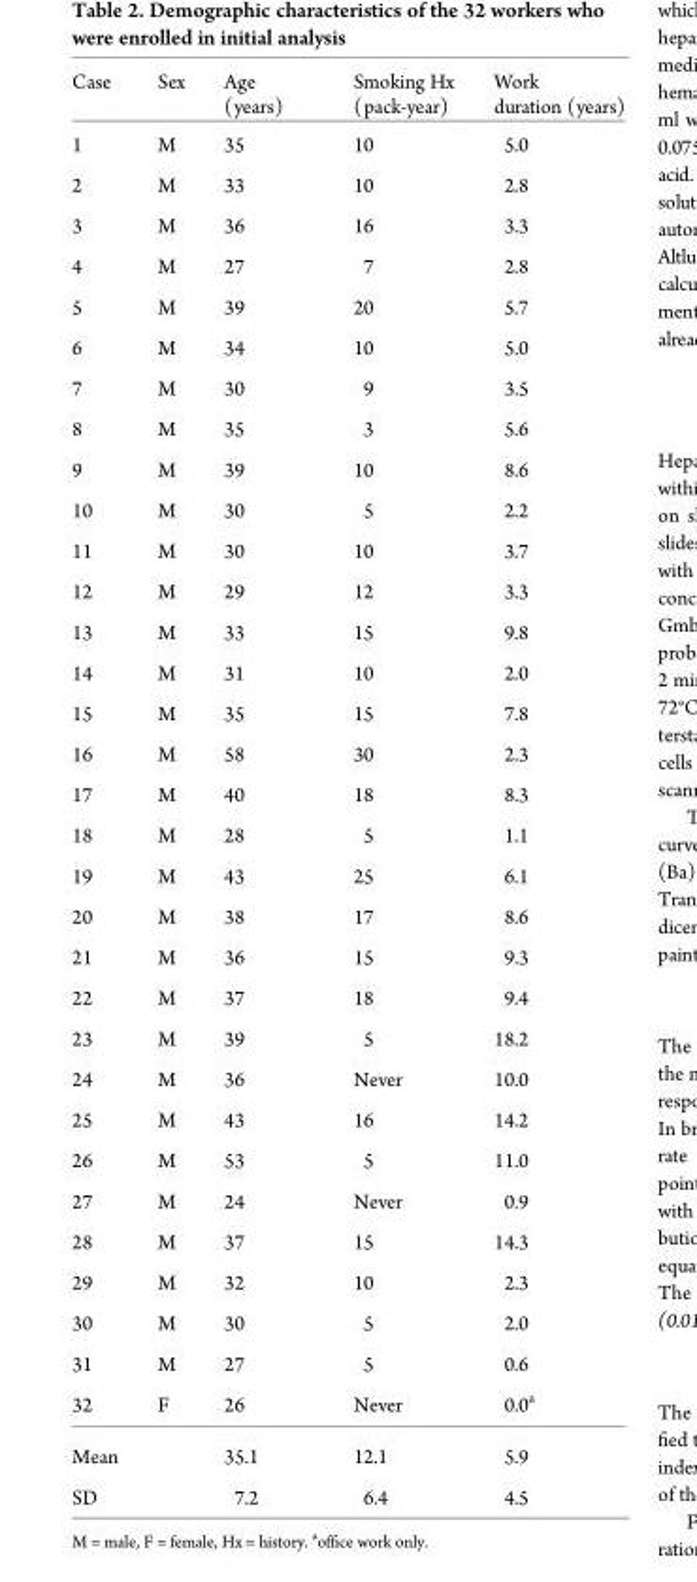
<table><thead><tr><td>Case</td><td>Sex</td><td>Age (years)</td><td>Smoking Hx (pack-year)</td><td>Work duration (years)</td></tr></thead><tbody><tr><td>1</td><td>M</td><td>35</td><td>10</td><td>5.0</td></tr><tr><td>2</td><td>M</td><td>33</td><td>10</td><td>2.8</td></tr><tr><td>3</td><td>M</td><td>36</td><td>16</td><td>3.3</td></tr><tr><td>4</td><td>M</td><td>27</td><td>7</td><td>2.8</td></tr><tr><td>5</td><td>M</td><td>39</td><td>20</td><td>5.7</td></tr><tr><td>6</td><td>M</td><td>34</td><td>10</td><td>5.0</td></tr><tr><td>7</td><td>M</td><td>30</td><td>9</td><td>3.5</td></tr><tr><td>8</td><td>M</td><td>35</td><td>3</td><td>5.6</td></tr><tr><td>9</td><td>M</td><td>39</td><td>10</td><td>8.6</td></tr><tr><td>10</td><td>M</td><td>30</td><td>5</td><td>2.2</td></tr><tr><td>11</td><td>M</td><td>30</td><td>10</td><td>3.7</td></tr><tr><td>12</td><td>M</td><td>29</td><td>12</td><td>3.3</td></tr><tr><td>13</td><td>M</td><td>33</td><td>15</td><td>9.8</td></tr><tr><td>14</td><td>M</td><td>31</td><td>10</td><td>2.0</td></tr><tr><td>15</td><td>M</td><td>35</td><td>15</td><td>7.8</td></tr><tr><td>16</td><td>M</td><td>58</td><td>30</td><td>2.3</td></tr><tr><td>17</td><td>M</td><td>40</td><td>18</td><td>8.3</td></tr><tr><td>18</td><td>M</td><td>28</td><td>5</td><td>1.1</td></tr><tr><td>19</td><td>M</td><td>43</td><td>25</td><td>6.1</td></tr><tr><td>20</td><td>M</td><td>38</td><td>17</td><td>8.6</td></tr><tr><td>21</td><td>M</td><td>36</td><td>15</td><td>9.3</td></tr><tr><td>22</td><td>M</td><td>37</td><td>18</td><td>9.4</td></tr><tr><td>23</td><td>M</td><td>39</td><td>5</td><td>18.2</td></tr><tr><td>24</td><td>M</td><td>36</td><td>Never</td><td>10.0</td></tr><tr><td>25</td><td>M</td><td>43</td><td>16</td><td>14.2</td></tr><tr><td>26</td><td>M</td><td>53</td><td>5</td><td>11.0</td></tr><tr><td>27</td><td>M</td><td>24</td><td>Never</td><td>0.9</td></tr><tr><td>28</td><td>M</td><td>37</td><td>15</td><td>14.3</td></tr><tr><td>29</td><td>M</td><td>32</td><td>10</td><td>2.3</td></tr><tr><td>30</td><td>M</td><td>30</td><td>5</td><td>2.0</td></tr><tr><td>31</td><td>M</td><td>27</td><td>5</td><td>0.6</td></tr><tr><td>32</td><td>F</td><td>26</td><td>Never</td><td>0.0<sup>a</sup></td></tr><tr><td>Mean</td><td></td><td>35.1</td><td>12.1</td><td>5.9</td></tr><tr><td>SD</td><td></td><td>7.2</td><td>6.4</td><td>4.5</td></tr></tbody></table>